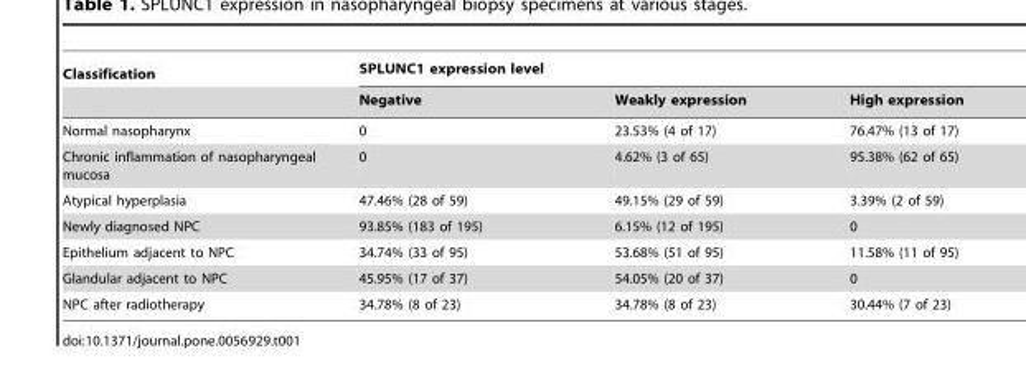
<table><thead><tr><td rowspan="2">Classification</td><td colspan="3">SPLUNC1 expression level</td></tr><tr><td>Negative</td><td>Weakly expression</td><td>High expression</td></tr></thead><tbody><tr><td>Normal nasopharynx</td><td>0</td><td>23.53% (4 of 17)</td><td>76.47% (13 of 17)</td></tr><tr><td>Chronic inflammation of nasopharyngeal mucosa</td><td>0</td><td>4.62% (3 of 65)</td><td>95.38% (62 of 65)</td></tr><tr><td>Atypical hyperplasia</td><td>47.46% (28 of 59)</td><td>49.15% (29 of 59)</td><td>3.39% (2 of 59)</td></tr><tr><td>Newly diagnosed NPC</td><td>93.85% (183 of 195)</td><td>6.15% (12 of 195)</td><td>0</td></tr><tr><td>Epithelium adjacent to NPC</td><td>34.74% (33 of 95)</td><td>53.68% (51 of 95)</td><td>11.58% (11 of 95)</td></tr><tr><td>Glandular adjacent to NPC</td><td>45.95% (17 of 37)</td><td>54.05% (20 of 37)</td><td>0</td></tr><tr><td>NPC after radiotherapy</td><td>34.78% (8 of 23)</td><td>34.78% (8 of 23)</td><td>30.44% (7 of 23)</td></tr></tbody></table>